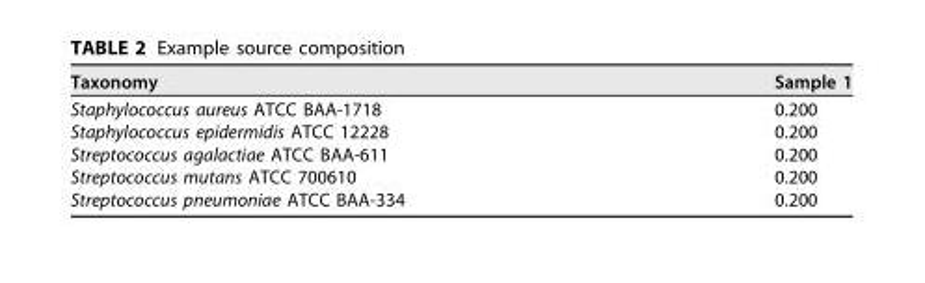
<table><thead><tr><td>Taxonomy</td><td>Sample 1</td></tr></thead><tbody><tr><td>Staphylococcus aureus ATCC BAA-1718</td><td>0.200</td></tr><tr><td>Staphylococcus epidermidis ATCC 12228</td><td>0.200</td></tr><tr><td>Streptococcus agalactiae ATCC BAA-611</td><td>0.200</td></tr><tr><td>Streptococcus mutans ATCC 700610</td><td>0.200</td></tr><tr><td>Streptococcus pneumoniae ATCC BAA-334</td><td>0.200</td></tr></tbody></table>